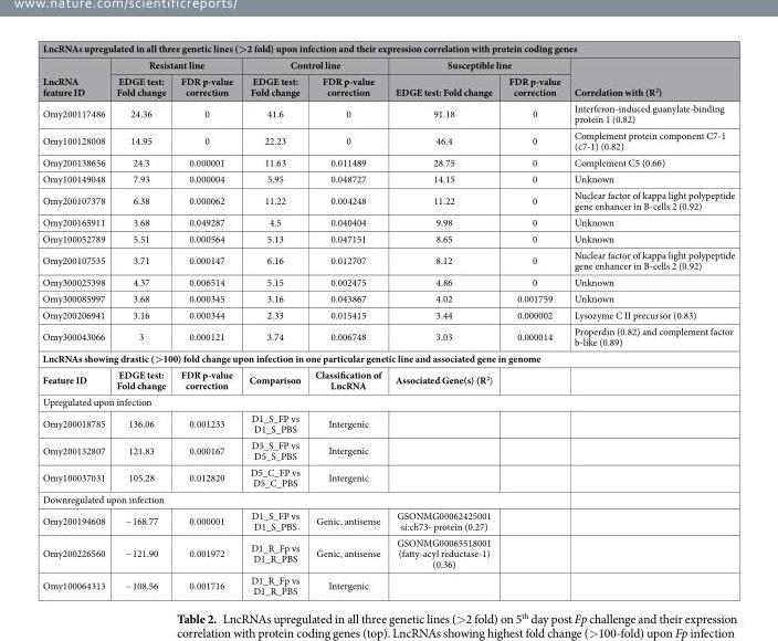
<table><thead><tr><td colspan="8">LncRNAs upregulated in all three genetic lines (&gt;2 fold) upon infection and their expression correlation with protein coding genes</td></tr><tr><td rowspan="2">LncRNA feature ID</td><td colspan="2">Resistant line</td><td colspan="2">Control line</td><td colspan="2">Susceptible line</td><td rowspan="2">Correlation with (R<sup>2</sup>)</td></tr><tr><td>EDGE test: Fold change</td><td>FDR p-value correction</td><td>EDGE test: Fold change</td><td>FDR p-value correction</td><td>EDGE test: Fold change</td><td>FDR p-value correction</td></tr></thead><tbody><tr><td>Omy200117486</td><td>24.36</td><td>0</td><td>41.6</td><td>0</td><td>91.18</td><td>0</td><td>Interferon-induced guanylate-binding protein 1 (0.82)</td></tr><tr><td>Omy100128008</td><td>14.95</td><td>0</td><td>22.23</td><td>0</td><td>46.4</td><td>0</td><td>Complement protein component C7-1 (c7-1) (0.82)</td></tr><tr><td>Omy200138656</td><td>24.3</td><td>0.000001</td><td>11.63</td><td>0.011489</td><td>28.75</td><td>0</td><td>Complement C5 (0.66)</td></tr><tr><td>Omy100149048</td><td>7.93</td><td>0.000004</td><td>5.95</td><td>0.048727</td><td>14.15</td><td>0</td><td>Unknown</td></tr><tr><td>Omy200107378</td><td>6.38</td><td>0.000062</td><td>11.22</td><td>0.004248</td><td>11.22</td><td>0</td><td>Nuclear factor of kappa light polypeptide gene enhancer in B-cells 2 (0.92)</td></tr><tr><td>Omy200165911</td><td>3.68</td><td>0.049287</td><td>4.5</td><td>0.040404</td><td>9.98</td><td>0</td><td>Unknown</td></tr><tr><td>Omy100052789</td><td>5.51</td><td>0.000564</td><td>5.13</td><td>0.047151</td><td>8.65</td><td>0</td><td>Unknown</td></tr><tr><td>Omy200107535</td><td>3.71</td><td>0.000147</td><td>6.16</td><td>0.012707</td><td>8.12</td><td>0</td><td>Nuclear factor of kappa light polypeptide gene enhancer in B-cells 2 (0.92)</td></tr><tr><td>Omy300025398</td><td>4.37</td><td>0.006514</td><td>5.15</td><td>0.002475</td><td>4.86</td><td>0</td><td>Unknown</td></tr><tr><td>Omy300085997</td><td>3.68</td><td>0.000345</td><td>3.16</td><td>0.043867</td><td>4.02</td><td>0.001759</td><td>Unknown</td></tr><tr><td>Omy200206941</td><td>3.16</td><td>0.000344</td><td>2.33</td><td>0.015415</td><td>3.44</td><td>0.000002</td><td>Lysozyme C II precursor (0.83)</td></tr><tr><td>Omy300043066</td><td>3</td><td>0.000121</td><td>3.74</td><td>0.006748</td><td>3.03</td><td>0.000014</td><td>Properdin (0.82) and complement factor b-like (0.89)</td></tr><tr><td colspan="8">LncRNAs showing drastic (&gt; 100) fold change upon infection in one particular genetic line and associated gene in genome</td></tr><tr><td>Feature ID</td><td>EDGE test: Fold change</td><td>FDR p-value correction</td><td>Comparison</td><td>Classification of LncRNA</td><td>Associated Gene(s) (R<sup>2</sup>)</td><td></td><td></td></tr><tr><td colspan="8">Upregulated upon infection</td></tr><tr><td>Omy200018785</td><td>136.06</td><td>0.001233</td><td>D1_S_FP vs D1_S_PBS</td><td>Intergenic</td><td></td><td></td><td></td></tr><tr><td>Omy200132807</td><td>121.83</td><td>0.000167</td><td>D5_S_FP vs D5_S_PBS</td><td>Intergenic</td><td></td><td></td><td></td></tr><tr><td>Omy100037031</td><td>105.28</td><td>0.012820</td><td>D5_C_FP vs D5_C_PBS</td><td>Intergenic</td><td></td><td></td><td></td></tr><tr><td colspan="8">Downregulated upon infection</td></tr><tr><td>Omy200194608</td><td>− 168.77</td><td>0.000001</td><td>D1_S_FP vs D1_S_PBS</td><td>Genic, antisense</td><td>GSONMG00062425001 si:ch73- protein (0.27)</td><td></td><td></td></tr><tr><td>Omy200226560</td><td>− 121.90</td><td>0.001972</td><td>D1_R_Fp vs D1_R_PBS</td><td>Genic, antisense</td><td>GSONMG00065518001 (fatty-acyl reductase-1) (0.36)</td><td></td><td></td></tr><tr><td>Omy100064313</td><td>− 108.56</td><td>0.001716</td><td>D1_R_Fp vs D1_R_PBS</td><td>Intergenic</td><td></td><td></td><td></td></tr></tbody></table>